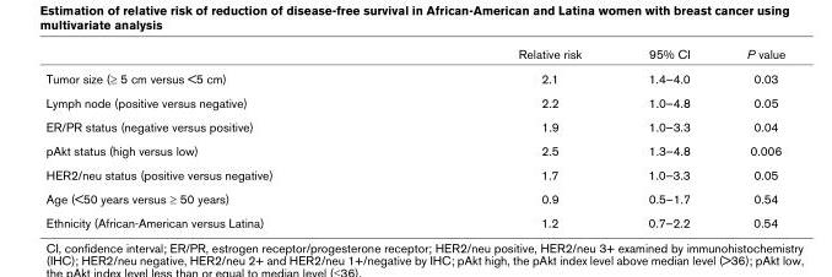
<table><thead><tr><td></td><td>Relative risk</td><td>95% CI</td><td>P value</td></tr></thead><tbody><tr><td>Tumor size (≥ 5 cm versus &lt;5 cm)</td><td>2.1</td><td>1.4–4.0</td><td>0.03</td></tr><tr><td>Lymph node (positive versus negative)</td><td>2.2</td><td>1.0–4.8</td><td>0.05</td></tr><tr><td>ER/PR status (negative versus positive)</td><td>1.9</td><td>1.0–3.3</td><td>0.04</td></tr><tr><td>pAkt status (high versus low)</td><td>2.5</td><td>1.3–4.8</td><td>0.006</td></tr><tr><td>HER2/neu status (positive versus negative)</td><td>1.7</td><td>1.0–3.3</td><td>0.05</td></tr><tr><td>Age (&lt;50 years versus ≥ 50 years)</td><td>0.9</td><td>0.5–1.7</td><td>0.54</td></tr><tr><td>Ethnicity (African-American versus Latina)</td><td>1.2</td><td>0.7–2.2</td><td>0.54</td></tr></tbody></table>